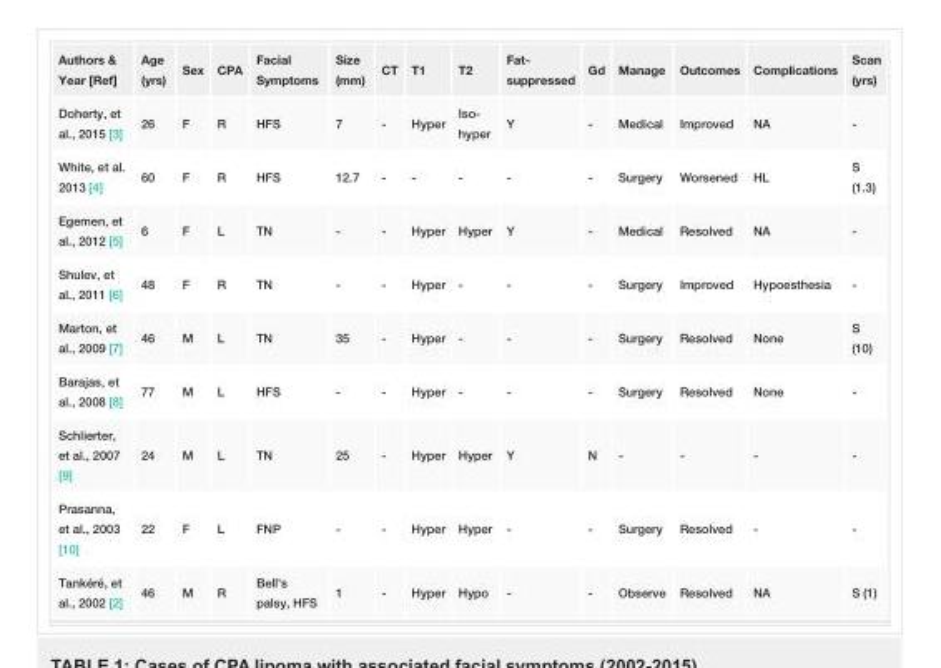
<table><tbody><tr><td>Authors &amp; Year [Ref]</td><td>Age (yrs)</td><td>Sex</td><td>CPA</td><td>Facial Symptoms</td><td>Size (mm)</td><td>CT</td><td>T1</td><td>T2</td><td>Fat- suppressed</td><td>Gd</td><td>Manage</td><td>Outcomes</td><td>Complications</td><td>Scan (yrs)</td></tr><tr><td>Doherty, et al., 2015 [3]</td><td>26</td><td>F</td><td>R</td><td>HFS</td><td>7</td><td>-</td><td>Hyper</td><td>Iso- hyper</td><td>Y</td><td>-</td><td>Medical</td><td>Improved</td><td>NA</td><td>-</td></tr><tr><td>White, et al. 2013 [4]</td><td>60</td><td>F</td><td>R</td><td>HFS</td><td>12.7</td><td>-</td><td>-</td><td>-</td><td>-</td><td>-</td><td>Surgery</td><td>Worsened</td><td>HL</td><td>S (1.3)</td></tr><tr><td>Egemen, et al., 2012 [5]</td><td>6</td><td>F</td><td>L</td><td>TN</td><td>-</td><td>-</td><td>Hyper</td><td>Hyper</td><td>Y</td><td>-</td><td>Medical</td><td>Resolved</td><td>NA</td><td>-</td></tr><tr><td>Shulev, et al., 2011 [6]</td><td>48</td><td>F</td><td>R</td><td>TN</td><td>-</td><td>-</td><td>Hyper</td><td>-</td><td>-</td><td>-</td><td>Surgery</td><td>Improved</td><td>Hypoesthesia</td><td>-</td></tr><tr><td>Marton, et al., 2009 [7]</td><td>46</td><td>M</td><td>L</td><td>TN</td><td>35</td><td>-</td><td>Hyper</td><td>-</td><td>-</td><td>-</td><td>Surgery</td><td>Resolved</td><td>None</td><td>S (10)</td></tr><tr><td>Barajas, et al., 2008 [8]</td><td>77</td><td>M</td><td>L</td><td>HFS</td><td>-</td><td>-</td><td>Hyper</td><td>-</td><td>-</td><td>-</td><td>Surgery</td><td>Resolved</td><td>None</td><td>-</td></tr><tr><td>Schlierter, et al., 2007 [9]</td><td>24</td><td>M</td><td>L</td><td>TN</td><td>25</td><td>-</td><td>Hyper</td><td>Hyper</td><td>Y</td><td>N</td><td>-</td><td>-</td><td>-</td><td>-</td></tr><tr><td>Prasanna, et al., 2003 [10]</td><td>22</td><td>F</td><td>L</td><td>FNP</td><td>-</td><td>-</td><td>Hyper</td><td>Hyper</td><td>-</td><td>-</td><td>Surgery</td><td>Resolved</td><td>-</td><td>-</td></tr><tr><td>Tankéré, et al., 2002 [2]</td><td>46</td><td>M</td><td>R</td><td>Bell&#x27;s palsy, HFS</td><td>1</td><td>-</td><td>Hyper</td><td>Hypo</td><td>-</td><td>-</td><td>Observe</td><td>Resolved</td><td>NA</td><td>S (1)</td></tr></tbody></table>